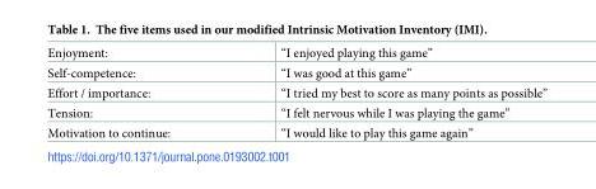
<table><tbody><tr><td>Enjoyment:</td><td>“I enjoyed playing this game”</td></tr><tr><td>Self-competence:</td><td>“I was good at this game”</td></tr><tr><td>Effort / importance:</td><td>“I tried my best to score as many points as possible”</td></tr><tr><td>Tension:</td><td>“I felt nervous while I was playing the game”</td></tr><tr><td>Motivation to continue:</td><td>“I would like to play this game again”</td></tr></tbody></table>